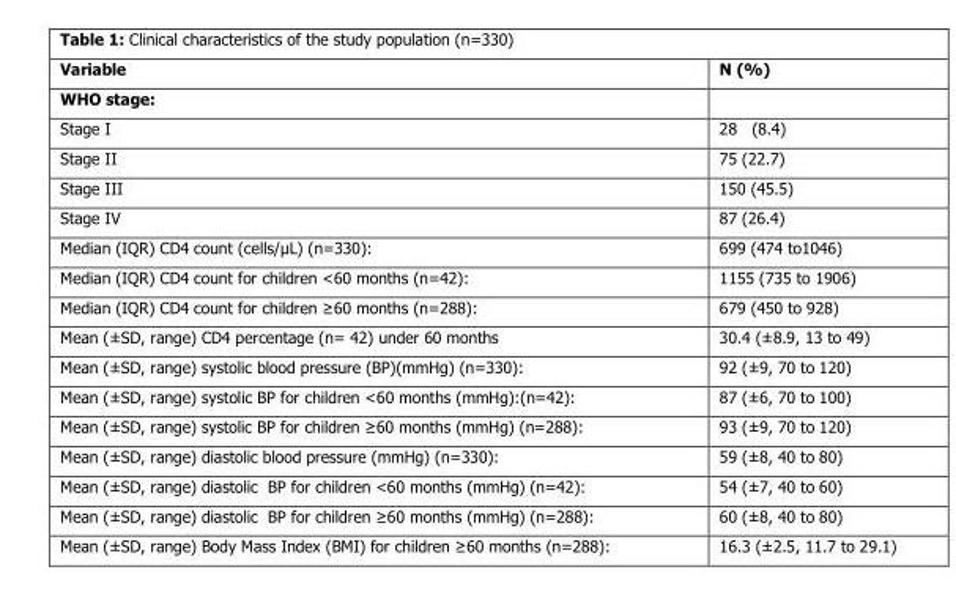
<table><thead><tr><td>Variable</td><td>N (%)</td></tr></thead><tbody><tr><td colspan="2">WHO stage:</td></tr><tr><td>Stage I</td><td>28 (8.4)</td></tr><tr><td>Stage II</td><td>75 (22.7)</td></tr><tr><td>Stage III</td><td>150 (45.5)</td></tr><tr><td>Stage IV</td><td>87 (26.4)</td></tr><tr><td>Median (IQR) CD4 count (cells/µL) (n=330):</td><td>699 (474 to1046)</td></tr><tr><td>Median (IQR) CD4 count for children &lt;60 months (n=42):</td><td>1155 (735 to 1906)</td></tr><tr><td>Median (IQR) CD4 count for children ≥60 months (n=288):</td><td>679 (450 to 928)</td></tr><tr><td>Mean (±SD, range) CD4 percentage (n= 42) under 60 months</td><td>30.4 (±8.9, 13 to 49)</td></tr><tr><td>Mean (±SD, range) systolic blood pressure (BP)(mmHg) (n=330):</td><td>92 (±9, 70 to 120)</td></tr><tr><td>Mean (±SD, range) systolic BP for children &lt;60 months (mmHg):(n=42):</td><td>87 (±6, 70 to 100)</td></tr><tr><td>Mean (±SD, range) systolic BP for children ≥60 months (mmHg) (n=288):</td><td>93 (±9, 70 to 120)</td></tr><tr><td>Mean (±SD, range) diastolic blood pressure (mmHg) (n=330):</td><td>59 (±8, 40 to 80)</td></tr><tr><td>Mean (±SD, range) diastolic BP for children &lt;60 months (mmHg) (n=42):</td><td>54 (±7, 40 to 60)</td></tr><tr><td>Mean (±SD, range) diastolic BP for children ≥60 months (mmHg) (n=288):</td><td>60 (±8, 40 to 80)</td></tr><tr><td>Mean (±SD, range) Body Mass Index (BMI) for children ≥60 months (n=288):</td><td>16.3 (±2.5, 11.7 to 29.1)</td></tr></tbody></table>